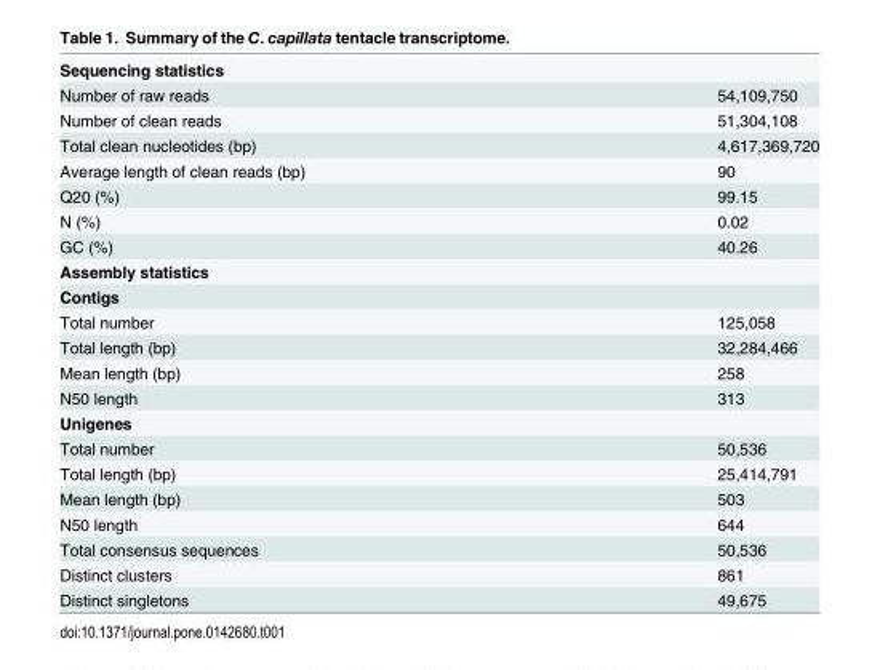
<table><tbody><tr><td colspan="2">Sequencing statistics</td></tr><tr><td>Number of raw reads</td><td>54,109,750</td></tr><tr><td>Number of clean reads</td><td>51,304,108</td></tr><tr><td>Total clean nucleotides (bp)</td><td>4,617,369,720</td></tr><tr><td>Average length of clean reads (bp)</td><td>90</td></tr><tr><td>Q20 (%)</td><td>99.15</td></tr><tr><td>N (%)</td><td>0.02</td></tr><tr><td>GC (%)</td><td>40.26</td></tr><tr><td colspan="2">Assembly statistics</td></tr><tr><td colspan="2">Contigs</td></tr><tr><td>Total number</td><td>125,058</td></tr><tr><td>Total length (bp)</td><td>32,284,466</td></tr><tr><td>Mean length (bp)</td><td>258</td></tr><tr><td>N50 length</td><td>313</td></tr><tr><td colspan="2">Unigenes</td></tr><tr><td>Total number</td><td>50,536</td></tr><tr><td>Total length (bp)</td><td>25,414,791</td></tr><tr><td>Mean length (bp)</td><td>503</td></tr><tr><td>N50 length</td><td>644</td></tr><tr><td>Total consensus sequences</td><td>50,536</td></tr><tr><td>Distinct clusters</td><td>861</td></tr><tr><td>Distinct singletons</td><td>49,675</td></tr></tbody></table>